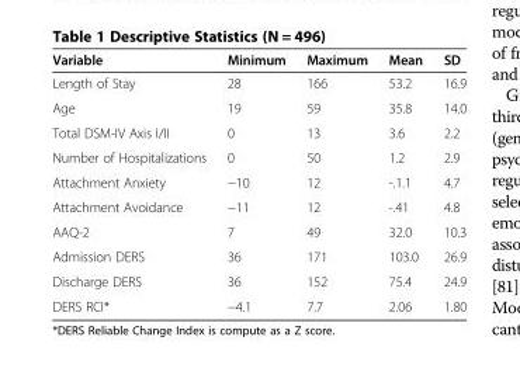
<table><thead><tr><td>Variable</td><td>Minimum</td><td>Maximum</td><td>Mean</td><td>SD</td></tr></thead><tbody><tr><td>Length of Stay</td><td>28</td><td>166</td><td>53.2</td><td>16.9</td></tr><tr><td>Age</td><td>19</td><td>59</td><td>35.8</td><td>14.0</td></tr><tr><td>Total DSM-IV Axis I/II</td><td>0</td><td>13</td><td>3.6</td><td>2.2</td></tr><tr><td>Number of Hospitalizations</td><td>0</td><td>50</td><td>1.2</td><td>2.9</td></tr><tr><td>Attachment Anxiety</td><td>−10</td><td>12</td><td>-.1.1</td><td>4.7</td></tr><tr><td>Attachment Avoidance</td><td>−11</td><td>12</td><td>-.41</td><td>4.8</td></tr><tr><td>AAQ-2</td><td>7</td><td>49</td><td>32.0</td><td>10.3</td></tr><tr><td>Admission DERS</td><td>36</td><td>171</td><td>103.0</td><td>26.9</td></tr><tr><td>Discharge DERS</td><td>36</td><td>152</td><td>75.4</td><td>24.9</td></tr><tr><td>DERS RCI*</td><td>−4.1</td><td>7.7</td><td>2.06</td><td>1.80</td></tr></tbody></table>